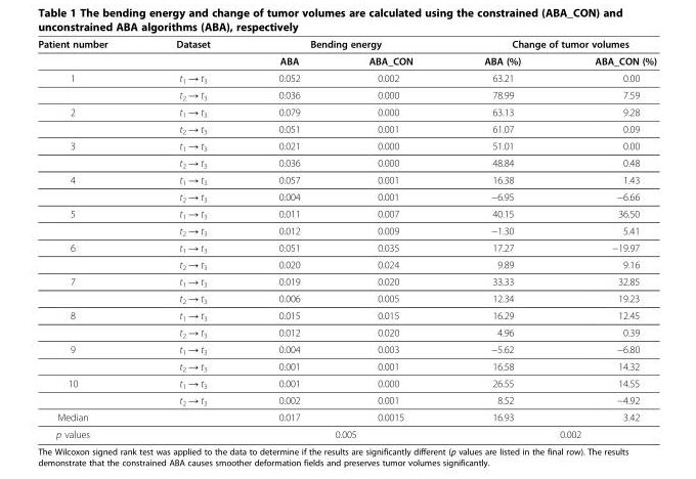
<table><thead><tr><td rowspan="2">Patient number</td><td rowspan="2">Dataset</td><td colspan="2">Bending energy</td><td colspan="2">Change of tumor volumes</td></tr><tr><td>ABA</td><td>ABA_CON</td><td>ABA (%)</td><td>ABA_CON (%)</td></tr></thead><tbody><tr><td rowspan="2">1</td><td>t<sub>1</sub> → t<sub>3</sub></td><td>0.052</td><td>0.002</td><td>63.21</td><td>0.00</td></tr><tr><td>t<sub>2</sub> → t<sub>3</sub></td><td>0.036</td><td>0.000</td><td>78.99</td><td>7.59</td></tr><tr><td rowspan="2">2</td><td>t<sub>1</sub> → t<sub>3</sub></td><td>0.079</td><td>0.000</td><td>63.13</td><td>9.28</td></tr><tr><td>t<sub>2</sub> → t<sub>3</sub></td><td>0.051</td><td>0.001</td><td>61.07</td><td>0.09</td></tr><tr><td rowspan="2">3</td><td>t<sub>1</sub> → t<sub>3</sub></td><td>0.021</td><td>0.000</td><td>51.01</td><td>0.00</td></tr><tr><td>t<sub>2</sub> → t<sub>3</sub></td><td>0.036</td><td>0.000</td><td>48.84</td><td>0.48</td></tr><tr><td rowspan="2">4</td><td>t<sub>1</sub> → t<sub>3</sub></td><td>0.057</td><td>0.001</td><td>16.38</td><td>1.43</td></tr><tr><td>t<sub>2</sub> → t<sub>3</sub></td><td>0.004</td><td>0.001</td><td>−6.95</td><td>−6.66</td></tr><tr><td rowspan="2">5</td><td>t<sub>1</sub> → t<sub>3</sub></td><td>0.011</td><td>0.007</td><td>40.15</td><td>36.50</td></tr><tr><td>t<sub>2</sub> → t<sub>3</sub></td><td>0.012</td><td>0.009</td><td>−1.30</td><td>5.41</td></tr><tr><td rowspan="2">6</td><td>t<sub>1</sub> → t<sub>3</sub></td><td>0.051</td><td>0.035</td><td>17.27</td><td>−19.97</td></tr><tr><td>t<sub>2</sub> → t<sub>3</sub></td><td>0.020</td><td>0.024</td><td>9.89</td><td>9.16</td></tr><tr><td rowspan="2">7</td><td>t<sub>1</sub> → t<sub>3</sub></td><td>0.019</td><td>0.020</td><td>33.33</td><td>32.85</td></tr><tr><td>t<sub>2</sub> → t<sub>3</sub></td><td>0.006</td><td>0.005</td><td>12.34</td><td>19.23</td></tr><tr><td rowspan="2">8</td><td>t<sub>1</sub> → t<sub>3</sub></td><td>0.015</td><td>0.015</td><td>16.29</td><td>12.45</td></tr><tr><td>t<sub>2</sub> → t<sub>3</sub></td><td>0.012</td><td>0.020</td><td>4.96</td><td>0.39</td></tr><tr><td rowspan="2">9</td><td>t<sub>1</sub> → t<sub>3</sub></td><td>0.004</td><td>0.003</td><td>−5.62</td><td>−6.80</td></tr><tr><td>t<sub>2</sub> → t<sub>3</sub></td><td>0.001</td><td>0.001</td><td>16.58</td><td>14.32</td></tr><tr><td rowspan="2">10</td><td>t<sub>1</sub> → t<sub>3</sub></td><td>0.001</td><td>0.000</td><td>26.55</td><td>14.55</td></tr><tr><td>t<sub>2</sub> → t<sub>3</sub></td><td>0.002</td><td>0.001</td><td>8.52</td><td>−4.92</td></tr><tr><td>Median</td><td></td><td>0.017</td><td>0.0015</td><td>16.93</td><td>3.42</td></tr><tr><td>p values</td><td></td><td colspan="2">0.005</td><td colspan="2">0.002</td></tr></tbody></table>